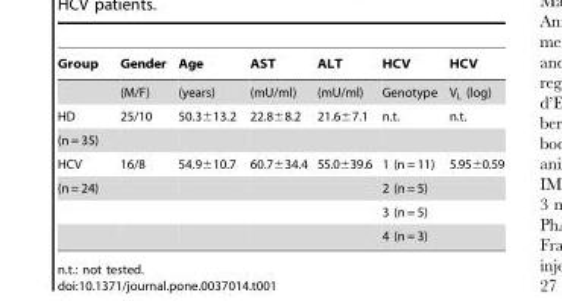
<table><thead><tr><td>Group</td><td>Gender</td><td>Age</td><td>AST</td><td>ALT</td><td>HCV</td><td>HCV</td></tr></thead><tbody><tr><td></td><td>(M/F)</td><td>(years)</td><td>(mU/ml)</td><td>(mU/ml)</td><td>Genotype</td><td>V<sub>L</sub> (log)</td></tr><tr><td>HD</td><td>25/10</td><td>50.3±13.2</td><td>22.8±8.2</td><td>21.6±7.1</td><td>n.t.</td><td>n.t.</td></tr><tr><td colspan="7">(n = 35)</td></tr><tr><td>HCV</td><td>16/8</td><td>54.9±10.7</td><td>60.7±34.4</td><td>55.0±39.6</td><td>1 (n = 11)</td><td>5.95±0.59</td></tr><tr><td rowspan="3">(n = 24)</td><td></td><td></td><td></td><td></td><td>2 (n = 5)</td><td></td></tr><tr><td></td><td></td><td></td><td></td><td>3 (n = 5)</td><td></td></tr><tr><td></td><td></td><td></td><td></td><td>4 (n = 3)</td><td></td></tr></tbody></table>